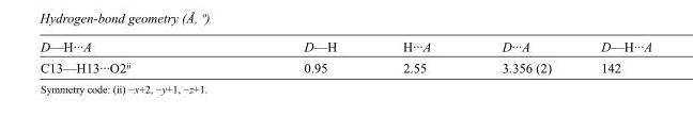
<table><tbody><tr><td>D—H···A</td><td>D—H</td><td>H···A</td><td>D···A</td><td>D—H···A</td></tr><tr><td>C13—H13···O2<sup>ii</sup></td><td>0.95</td><td>2.55</td><td>3.356 (2)</td><td>142</td></tr></tbody></table>